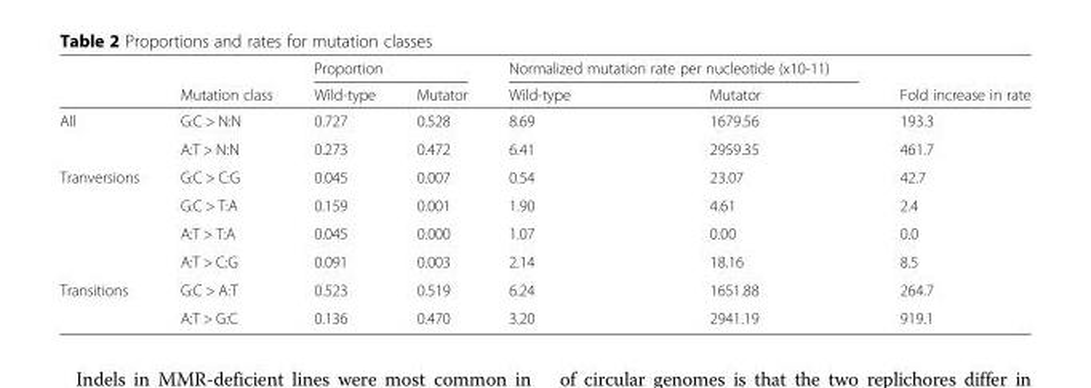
<table><thead><tr><td rowspan="2"></td><td rowspan="2">Mutation class</td><td colspan="2">Proportion</td><td colspan="2">Normalized mutation rate per nucleotide (x10-11)</td><td rowspan="2">Fold increase in rate</td></tr><tr><td>Wild-type</td><td>Mutator</td><td>Wild-type</td><td>Mutator</td></tr></thead><tbody><tr><td rowspan="2">All</td><td>G:C &gt; N:N</td><td>0.727</td><td>0.528</td><td>8.69</td><td>1679.56</td><td>193.3</td></tr><tr><td>A:T &gt; N:N</td><td>0.273</td><td>0.472</td><td>6.41</td><td>2959.35</td><td>461.7</td></tr><tr><td rowspan="4">Tranversions</td><td>G:C &gt; C:G</td><td>0.045</td><td>0.007</td><td>0.54</td><td>23.07</td><td>42.7</td></tr><tr><td>G:C &gt; T:A</td><td>0.159</td><td>0.001</td><td>1.90</td><td>4.61</td><td>2.4</td></tr><tr><td>A:T &gt; T:A</td><td>0.045</td><td>0.000</td><td>1.07</td><td>0.00</td><td>0.0</td></tr><tr><td>A:T &gt; C:G</td><td>0.091</td><td>0.003</td><td>2.14</td><td>18.16</td><td>8.5</td></tr><tr><td rowspan="2">Transitions</td><td>G:C &gt; A:T</td><td>0.523</td><td>0.519</td><td>6.24</td><td>1651.88</td><td>264.7</td></tr><tr><td>A:T &gt; G:C</td><td>0.136</td><td>0.470</td><td>3.20</td><td>2941.19</td><td>919.1</td></tr></tbody></table>